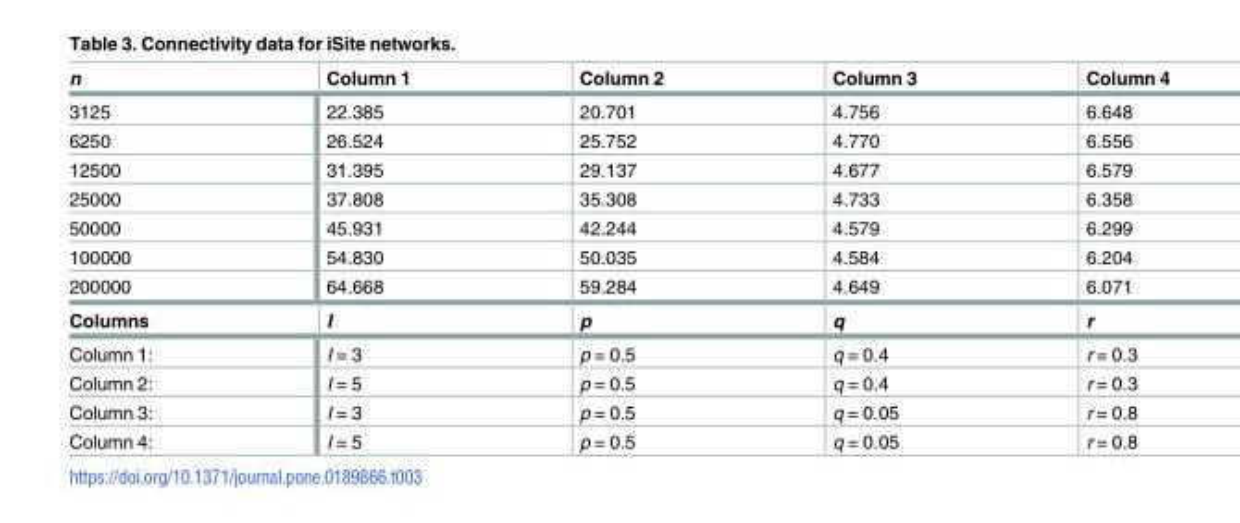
<table><tbody><tr><td>n</td><td>Column 1</td><td>Column 2</td><td>Column 3</td><td>Column 4</td></tr><tr><td>3125</td><td>22.385</td><td>20.701</td><td>4.756</td><td>6.648</td></tr><tr><td>6250</td><td>26.524</td><td>25.752</td><td>4.770</td><td>6.556</td></tr><tr><td>12500</td><td>31.395</td><td>29.137</td><td>4.677</td><td>6.579</td></tr><tr><td>25000</td><td>37.808</td><td>35.308</td><td>4.733</td><td>6.358</td></tr><tr><td>50000</td><td>45.931</td><td>42.244</td><td>4.579</td><td>6.299</td></tr><tr><td>100000</td><td>54.830</td><td>50.035</td><td>4.584</td><td>6.204</td></tr><tr><td>200000</td><td>64.668</td><td>59.284</td><td>4.649</td><td>6.071</td></tr><tr><td>Columns</td><td>I</td><td>p</td><td>q</td><td>r</td></tr><tr><td>Column 1:</td><td>I = 3</td><td>p = 0.5</td><td>q = 0.4</td><td>r = 0.3</td></tr><tr><td>Column 2:</td><td>I = 5</td><td>p = 0.5</td><td>q = 0.4</td><td>r = 0.3</td></tr><tr><td>Column 3:</td><td>I = 3</td><td>p = 0.5</td><td>q = 0.05</td><td>r = 0.8</td></tr><tr><td>Column 4:</td><td>I = 5</td><td>p = 0.5</td><td>q = 0.05</td><td>r = 0.8</td></tr></tbody></table>